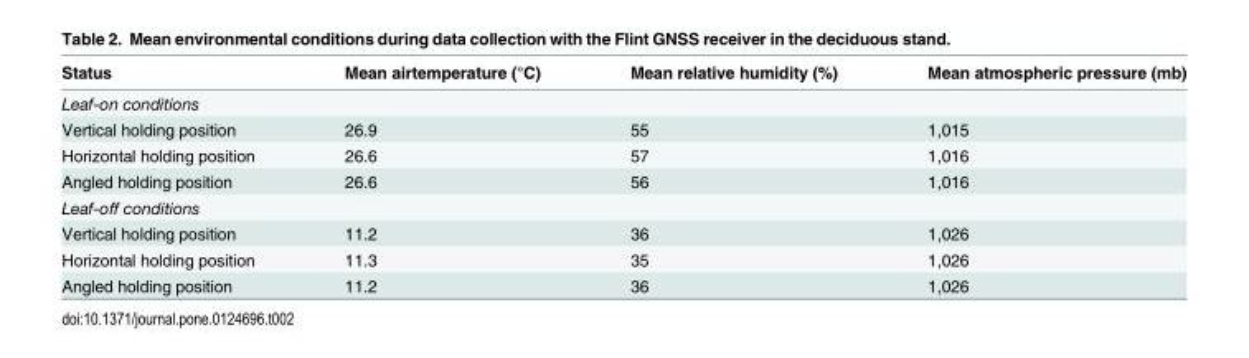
<table><thead><tr><td>Status</td><td>Mean airtemperature (°C)</td><td>Mean relative humidity (%)</td><td>Mean atmospheric pressure (mb)</td></tr></thead><tbody><tr><td colspan="4">Leaf-on conditions</td></tr><tr><td>Vertical holding position</td><td>26.9</td><td>55</td><td>1,015</td></tr><tr><td>Horizontal holding position</td><td>26.6</td><td>57</td><td>1,016</td></tr><tr><td>Angled holding position</td><td>26.6</td><td>56</td><td>1,016</td></tr><tr><td colspan="4">Leaf-off conditions</td></tr><tr><td>Vertical holding position</td><td>11.2</td><td>36</td><td>1,026</td></tr><tr><td>Horizontal holding position</td><td>11.3</td><td>35</td><td>1,026</td></tr><tr><td>Angled holding position</td><td>11.2</td><td>36</td><td>1,026</td></tr></tbody></table>